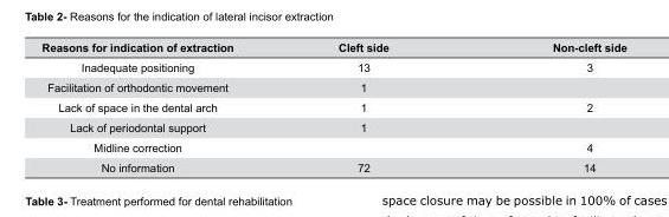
<table><thead><tr><td>Reasons for indication of extraction</td><td>Cleft side</td><td>Non-cleft side</td></tr></thead><tbody><tr><td>Inadequate positioning</td><td>13</td><td>3</td></tr><tr><td>Facilitation of orthodontic movement</td><td>1</td><td></td></tr><tr><td>Lack of space in the dental arch</td><td>1</td><td>2</td></tr><tr><td>Lack of periodontal support</td><td>1</td><td></td></tr><tr><td>Midline correction</td><td></td><td>4</td></tr><tr><td>No information</td><td>72</td><td>14</td></tr></tbody></table>